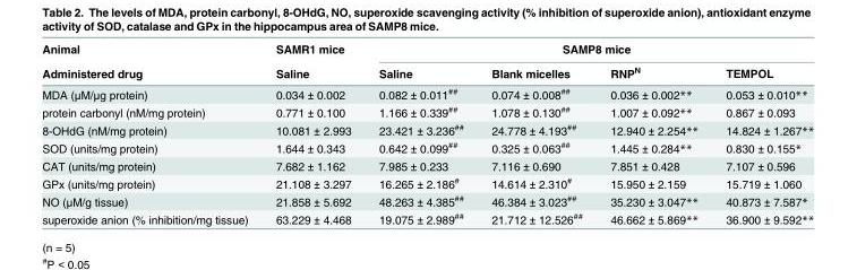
<table><thead><tr><td rowspan="2">Animal Administered drug</td><td rowspan="2">SAMR1 mice Saline</td><td colspan="4">SAMP8 mice</td></tr><tr><td>Saline</td><td>Blank micelles</td><td>RNP<sup>N</sup></td><td>TEMPOL</td></tr></thead><tbody><tr><td>MDA (μM/μg protein)</td><td>0.034 ± 0.002</td><td>0.082 ± 0.011<sup>##</sup></td><td>0.074 ± 0.008<sup>##</sup></td><td>0.036 ± 0.002**</td><td>0.053 ± 0.010**</td></tr><tr><td>protein carbonyl (nM/mg protein)</td><td>0.771 ± 0.100</td><td>1.166 ± 0.339<sup>##</sup></td><td>1.078 ± 0.130<sup>##</sup></td><td>1.007 ± 0.092**</td><td>0.867 ± 0.093</td></tr><tr><td>8-OHdG (nM/mg protein)</td><td>10.081 ± 2.993</td><td>23.421 ± 3.236<sup>##</sup></td><td>24.778 ± 4.193<sup>##</sup></td><td>12.940 ± 2.254**</td><td>14.824 ± 1.267**</td></tr><tr><td>SOD (units/mg protein)</td><td>1.644 ± 0.343</td><td>0.642 ± 0.099<sup>##</sup></td><td>0.325 ± 0.063<sup>##</sup></td><td>1.445 ± 0.284**</td><td>0.830 ± 0.155*</td></tr><tr><td>CAT (units/mg protein)</td><td>7.682 ± 1.162</td><td>7.985 ± 0.233</td><td>7.116 ± 0.690</td><td>7.851 ± 0.428</td><td>7.107 ± 0.596</td></tr><tr><td>GPx (units/mg protein)</td><td>21.108 ± 3.297</td><td>16.265 ± 2.186<sup>#</sup></td><td>14.614 ± 2.310<sup>#</sup></td><td>15.950 ± 2.159</td><td>15.719 ± 1.060</td></tr><tr><td>NO (μM/g tissue)</td><td>21.858 ± 5.692</td><td>48.263 ± 4.385<sup>##</sup></td><td>46.384 ± 3.023<sup>##</sup></td><td>35.230 ± 3.047**</td><td>40.873 ± 7.587*</td></tr><tr><td>superoxide anion (% inhibition/mg tissue)</td><td>63.229 ± 4.468</td><td>19.075 ± 2.989<sup>##</sup></td><td>21.712 ± 12.526<sup>##</sup></td><td>46.662 ± 5.869**</td><td>36.900 ± 9.592**</td></tr></tbody></table>